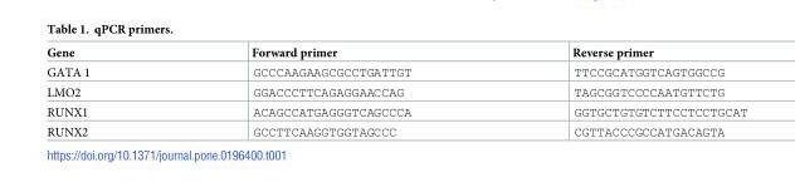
<table><thead><tr><td>Gene</td><td>Forward primer</td><td>Reverse primer</td></tr></thead><tbody><tr><td>GATA 1</td><td>GCCCAAGAAGCGCCTGATTGT</td><td>TTCCGCATGGTCAGTGGCCG</td></tr><tr><td>LMO2</td><td>GGACCCTTCAGAGGAACCAG</td><td>TAGCGGTCCCCAATGTTCTG</td></tr><tr><td>RUNX1</td><td>ACAGCCATGAGGGTCAGCCCA</td><td>GGTGCTGTGTCTTCCTCCTGCAT</td></tr><tr><td>RUNX2</td><td>GCCTTCAAGGTGGTAGCCC</td><td>CGTTACCCGCCATGACAGTA</td></tr></tbody></table>